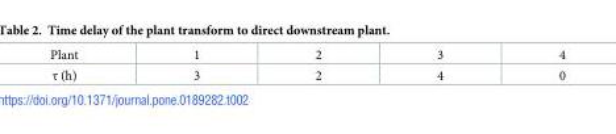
<table><tbody><tr><td>Plant</td><td>1</td><td>2</td><td>3</td><td>4</td></tr><tr><td>τ (h)</td><td>3</td><td>2</td><td>4</td><td>0</td></tr></tbody></table>